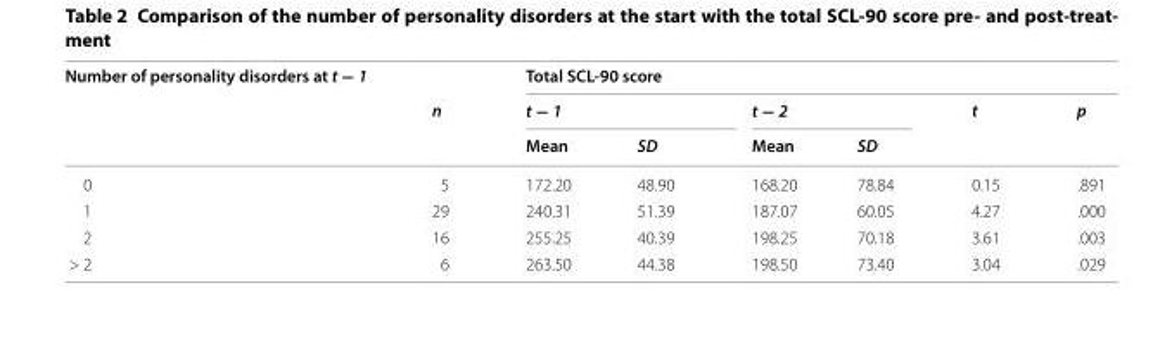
<table><thead><tr><td rowspan="3">Number of personality disorders at t − 1</td><td rowspan="3">n</td><td colspan="6">Total SCL‑90 score</td></tr><tr><td colspan="2">t − 1</td><td colspan="2">t − 2</td><td rowspan="2">t</td><td rowspan="2">p</td></tr><tr><td>Mean</td><td>SD</td><td>Mean</td><td>SD</td></tr></thead><tbody><tr><td>0</td><td>5</td><td>172.20</td><td>48.90</td><td>168.20</td><td>78.84</td><td>0.15</td><td>.891</td></tr><tr><td>1</td><td>29</td><td>240.31</td><td>51.39</td><td>187.07</td><td>60.05</td><td>4.27</td><td>.000</td></tr><tr><td>2</td><td>16</td><td>255.25</td><td>40.39</td><td>198.25</td><td>70.18</td><td>3.61</td><td>.003</td></tr><tr><td>&gt; 2</td><td>6</td><td>263.50</td><td>44.38</td><td>198.50</td><td>73.40</td><td>3.04</td><td>.029</td></tr></tbody></table>